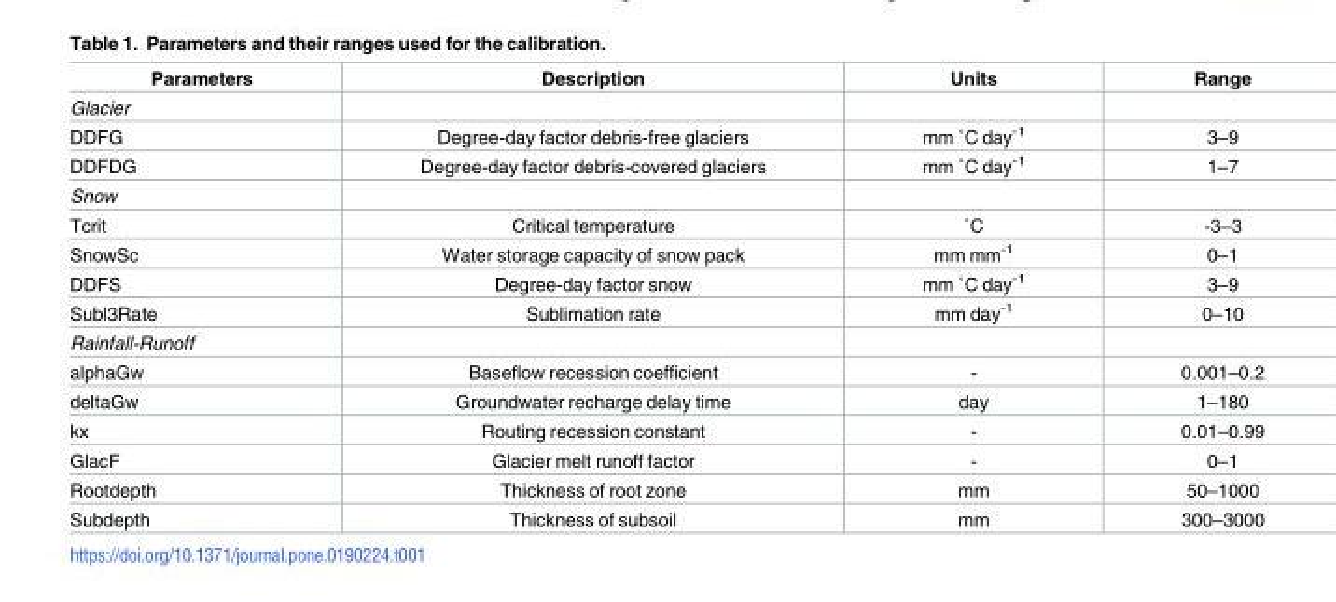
<table><thead><tr><td>Parameters</td><td>Description</td><td>Units</td><td>Range</td></tr></thead><tbody><tr><td colspan="4">Glacier</td></tr><tr><td>DDFG</td><td>Degree-day factor debris-free glaciers</td><td>mm ˚C day-1</td><td>3–9</td></tr><tr><td>DDFDG</td><td>Degree-day factor debris-covered glaciers</td><td>mm ˚C day-1</td><td>1–7</td></tr><tr><td colspan="4">Snow</td></tr><tr><td>Tcrit</td><td>Critical temperature</td><td>˚C</td><td>-3–3</td></tr><tr><td>SnowSc</td><td>Water storage capacity of snow pack</td><td>mm mm<sup>-1</sup></td><td>0–1</td></tr><tr><td>DDFS</td><td>Degree-day factor snow</td><td>mm ˚C day-1</td><td>3–9</td></tr><tr><td>Subl3Rate</td><td>Sublimation rate</td><td>mm day<sup>-1</sup></td><td>0–10</td></tr><tr><td colspan="4">Rainfall-Runoff</td></tr><tr><td>alphaGw</td><td>Baseflow recession coefficient</td><td>-</td><td>0.001–0.2</td></tr><tr><td>deltaGw</td><td>Groundwater recharge delay time</td><td>day</td><td>1–180</td></tr><tr><td>kx</td><td>Routing recession constant</td><td>-</td><td>0.01–0.99</td></tr><tr><td>GlacF</td><td>Glacier melt runoff factor</td><td>-</td><td>0–1</td></tr><tr><td>Rootdepth</td><td>Thickness of root zone</td><td>mm</td><td>50–1000</td></tr><tr><td>Subdepth</td><td>Thickness of subsoil</td><td>mm</td><td>300–3000</td></tr></tbody></table>